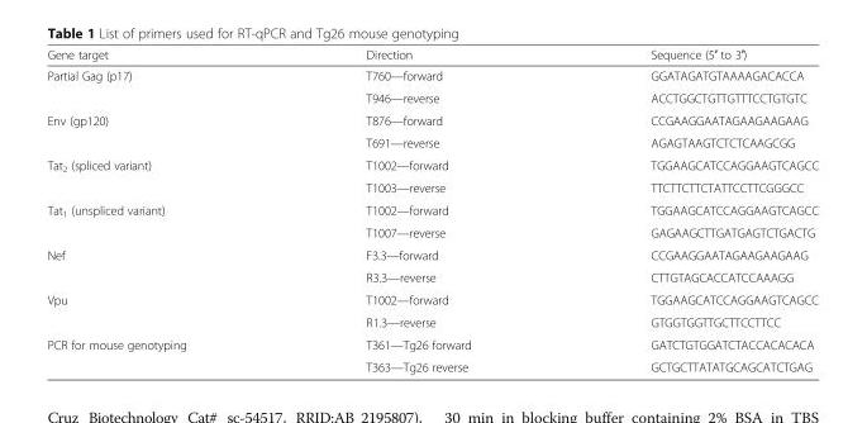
<table><thead><tr><td>Gene target</td><td>Direction</td><td>Sequence (5′ to 3′)</td></tr></thead><tbody><tr><td rowspan="2">Partial Gag (p17)</td><td>T760—forward</td><td>GGATAGATGTAAAAGACACCA</td></tr><tr><td>T946—reverse</td><td>ACCTGGCTGTTGTTTCCTGTGTC</td></tr><tr><td rowspan="2">Env (gp120)</td><td>T876—forward</td><td>CCGAAGGAATAGAAGAAGAAG</td></tr><tr><td>T691—reverse</td><td>AGAGTAAGTCTCTCAAGCGG</td></tr><tr><td rowspan="2">Tat<sub>2</sub> (spliced variant)</td><td>T1002—forward</td><td>TGGAAGCATCCAGGAAGTCAGCC</td></tr><tr><td>T1003—reverse</td><td>TTCTTCTTCTATTCCTTCGGGCC</td></tr><tr><td rowspan="2">Tat<sub>1</sub> (unspliced variant)</td><td>T1002—forward</td><td>TGGAAGCATCCAGGAAGTCAGCC</td></tr><tr><td>T1007—reverse</td><td>GAGAAGCTTGATGAGTCTGACTG</td></tr><tr><td rowspan="2">Nef</td><td>F3.3—forward</td><td>CCGAAGGAATAGAAGAAGAAG</td></tr><tr><td>R3.3—reverse</td><td>CTTGTAGCACCATCCAAAGG</td></tr><tr><td rowspan="2">Vpu</td><td>T1002—forward</td><td>TGGAAGCATCCAGGAAGTCAGCC</td></tr><tr><td>R1.3—reverse</td><td>GTGGTGGTTGCTTCCTTCC</td></tr><tr><td rowspan="2">PCR for mouse genotyping</td><td>T361—Tg26 forward</td><td>GATCTGTGGATCTACCACACACA</td></tr><tr><td>T363—Tg26 reverse</td><td>GCTGCTTATATGCAGCATCTGAG</td></tr></tbody></table>